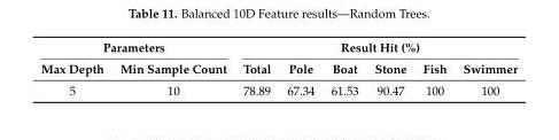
<table><thead><tr><td colspan="2">Parameters</td><td colspan="6">Result Hit (%)</td></tr><tr><td>Max Depth</td><td>Min Sample Count</td><td>Total</td><td>Pole</td><td>Boat</td><td>Stone</td><td>Fish</td><td>Swimmer</td></tr></thead><tbody><tr><td>5</td><td>10</td><td>78.89</td><td>67.34</td><td>61.53</td><td>90.47</td><td>100</td><td>100</td></tr></tbody></table>